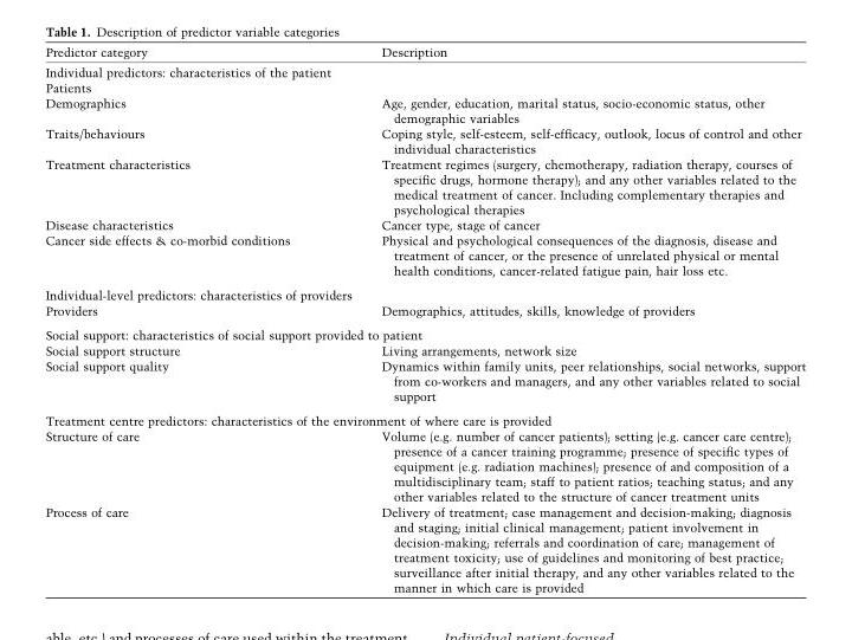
<table><thead><tr><td>Predictor category</td><td>Description</td></tr></thead><tbody><tr><td colspan="2">Individual predictors: characteristics of the patient</td></tr><tr><td colspan="2">Patients</td></tr><tr><td>Demographics</td><td>Age, gender, education, marital status, socio-economic status, other demographic variables</td></tr><tr><td>Traits/behaviours</td><td>Coping style, self-esteem, self-efficacy, outlook, locus of control and other individual characteristics</td></tr><tr><td>Treatment characteristics</td><td>Treatment regimes (surgery, chemotherapy, radiation therapy, courses of specific drugs, hormone therapy); and any other variables related to the medical treatment of cancer. Including complementary therapies and psychological therapies</td></tr><tr><td>Disease characteristics</td><td>Cancer type, stage of cancer</td></tr><tr><td>Cancer side effects &amp; co-morbid conditions</td><td>Physical and psychological consequences of the diagnosis, disease and treatment of cancer, or the presence of unrelated physical or mental health conditions, cancer-related fatigue pain, hair loss etc.</td></tr><tr><td colspan="2">Individual-level predictors: characteristics of providers</td></tr><tr><td>Providers</td><td>Demographics, attitudes, skills, knowledge of providers</td></tr><tr><td colspan="2">Social support: characteristics of social support provided to patient</td></tr><tr><td>Social support structure</td><td>Living arrangements, network size</td></tr><tr><td>Social support quality</td><td>Dynamics within family units, peer relationships, social networks, support from co-workers and managers, and any other variables related to social support</td></tr><tr><td colspan="2">Treatment centre predictors: characteristics of the environment of where care is provided</td></tr><tr><td>Structure of care</td><td>Volume (e.g. number of cancer patients); setting (e.g. cancer care centre); presence of a cancer training programme; presence of specific types of equipment (e.g. radiation machines); presence of and composition of a multidisciplinary team; staff to patient ratios; teaching status; and any other variables related to the structure of cancer treatment units</td></tr><tr><td>Process of care</td><td>Delivery of treatment; case management and decision-making; diagnosis and staging; initial clinical management; patient involvement in decision-making; referrals and coordination of care; management of treatment toxicity; use of guidelines and monitoring of best practice; surveillance after initial therapy, and any other variables related to the manner in which care is provided</td></tr></tbody></table>